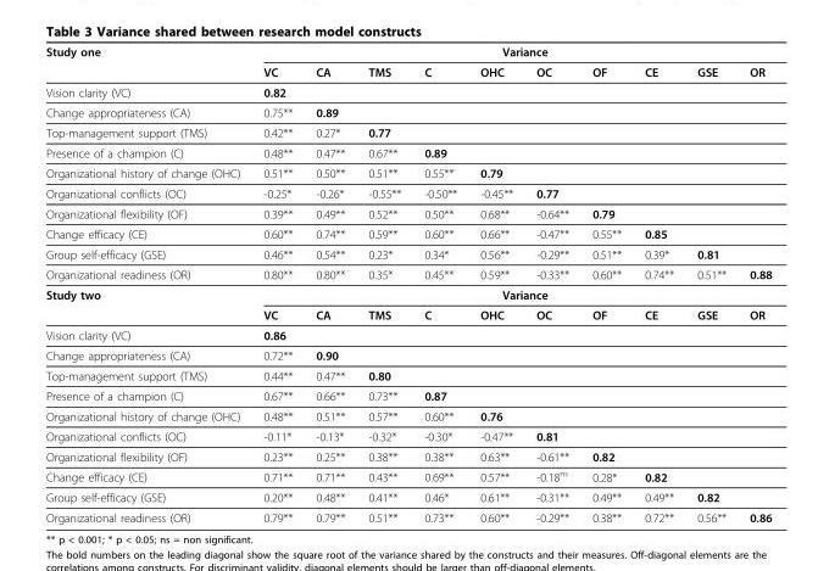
<table><thead><tr><td rowspan="2">Study one</td><td colspan="10">Variance</td></tr><tr><td>VC</td><td>CA</td><td>TMS</td><td>C</td><td>OHC</td><td>OC</td><td>OF</td><td>CE</td><td>GSE</td><td>OR</td></tr></thead><tbody><tr><td>Vision clarity (VC)</td><td>0.82</td><td></td><td></td><td></td><td></td><td></td><td></td><td></td><td></td><td></td></tr><tr><td>Change appropriateness (CA)</td><td>0.75**</td><td>0.89</td><td></td><td></td><td></td><td></td><td></td><td></td><td></td><td></td></tr><tr><td>Top-management support (TMS)</td><td>0.42**</td><td>0.27*</td><td>0.77</td><td></td><td></td><td></td><td></td><td></td><td></td><td></td></tr><tr><td>Presence of a champion (C)</td><td>0.48**</td><td>0.47**</td><td>0.67**</td><td>0.89</td><td></td><td></td><td></td><td></td><td></td><td></td></tr><tr><td>Organizational history of change (OHC)</td><td>0.51**</td><td>0.50**</td><td>0.51**</td><td>0.55**</td><td>0.79</td><td></td><td></td><td></td><td></td><td></td></tr><tr><td>Organizational conflicts (OC)</td><td>-0.25*</td><td>-0.26*</td><td>-0.55**</td><td>-0.50**</td><td>-0.45**</td><td>0.77</td><td></td><td></td><td></td><td></td></tr><tr><td>Organizational flexibility (OF)</td><td>0.39**</td><td>0.49**</td><td>0.52**</td><td>0.50**</td><td>0.68**</td><td>-0.64**</td><td>0.79</td><td></td><td></td><td></td></tr><tr><td>Change efficacy (CE)</td><td>0.60**</td><td>0.74**</td><td>0.59**</td><td>0.60**</td><td>0.66**</td><td>-0.47**</td><td>0.55**</td><td>0.85</td><td></td><td></td></tr><tr><td>Group self-efficacy (GSE)</td><td>0.46**</td><td>0.54**</td><td>0.23*</td><td>0.34*</td><td>0.56**</td><td>-0.29**</td><td>0.51**</td><td>0.39*</td><td>0.81</td><td></td></tr><tr><td>Organizational readiness (OR)</td><td>0.80**</td><td>0.80**</td><td>0.35*</td><td>0.45**</td><td>0.59**</td><td>-0.33**</td><td>0.60**</td><td>0.74**</td><td>0.51**</td><td>0.88</td></tr><tr><td rowspan="2">Study two</td><td colspan="10">Variance</td></tr><tr><td>VC</td><td>CA</td><td>TMS</td><td>C</td><td>OHC</td><td>OC</td><td>OF</td><td>CE</td><td>GSE</td><td>OR</td></tr><tr><td>Vision clarity (VC)</td><td>0.86</td><td></td><td></td><td></td><td></td><td></td><td></td><td></td><td></td><td></td></tr><tr><td>Change appropriateness (CA)</td><td>0.72**</td><td>0.90</td><td></td><td></td><td></td><td></td><td></td><td></td><td></td><td></td></tr><tr><td>Top-management support (TMS)</td><td>0.44**</td><td>0.47**</td><td>0.80</td><td></td><td></td><td></td><td></td><td></td><td></td><td></td></tr><tr><td>Presence of a champion (C)</td><td>0.67**</td><td>0.66**</td><td>0.73**</td><td>0.87</td><td></td><td></td><td></td><td></td><td></td><td></td></tr><tr><td>Organizational history of change (OHC)</td><td>0.48**</td><td>0.51**</td><td>0.57**</td><td>0.60**</td><td>0.76</td><td></td><td></td><td></td><td></td><td></td></tr><tr><td>Organizational conflicts (OC)</td><td>-0.11*</td><td>-0.13*</td><td>-0.32*</td><td>-0.30*</td><td>-0.47**</td><td>0.81</td><td></td><td></td><td></td><td></td></tr><tr><td>Organizational flexibility (OF)</td><td>0.23**</td><td>0.25**</td><td>0.38**</td><td>0.38**</td><td>0.63**</td><td>-0.61**</td><td>0.82</td><td></td><td></td><td></td></tr><tr><td>Change efficacy (CE)</td><td>0.71**</td><td>0.71**</td><td>0.43**</td><td>0.69**</td><td>0.57**</td><td>-0.18<sup>ns</sup></td><td>0.28*</td><td>0.82</td><td></td><td></td></tr><tr><td>Group self-efficacy (GSE)</td><td>0.20**</td><td>0.48**</td><td>0.41**</td><td>0.46*</td><td>0.61**</td><td>-0.31**</td><td>0.49**</td><td>0.49**</td><td>0.82</td><td></td></tr><tr><td>Organizational readiness (OR)</td><td>0.79**</td><td>0.79**</td><td>0.51**</td><td>0.73**</td><td>0.60**</td><td>-0.29**</td><td>0.38**</td><td>0.72**</td><td>0.56**</td><td>0.86</td></tr></tbody></table>